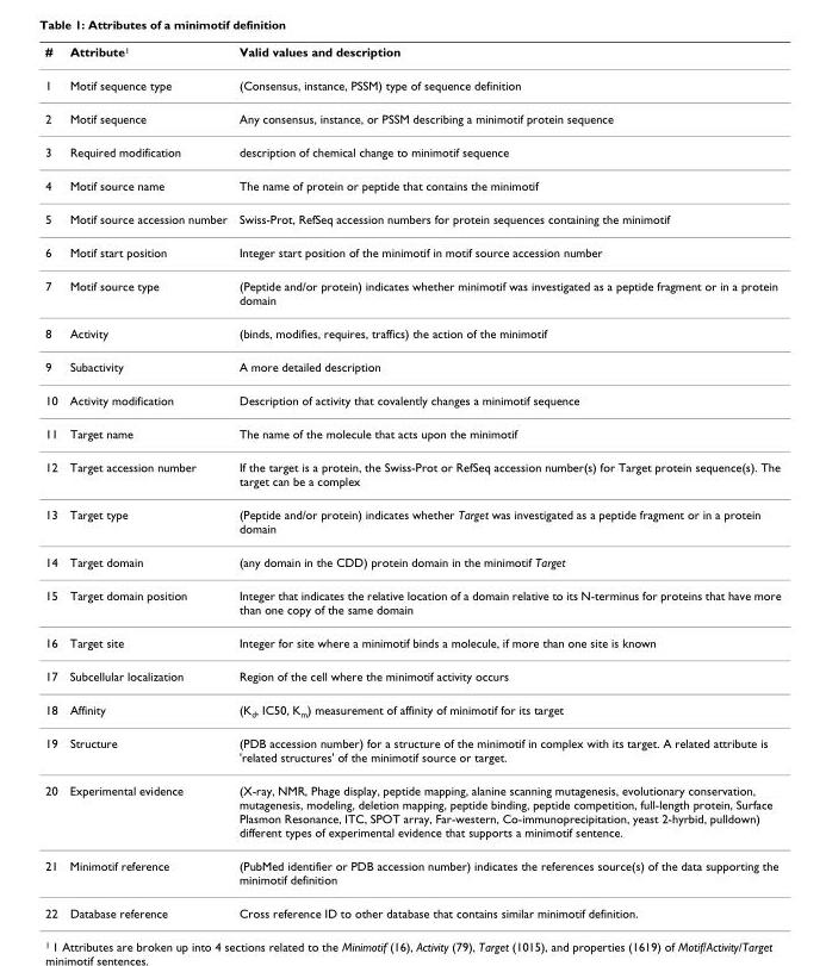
<table><thead><tr><td>#</td><td>Attribute<sup>1</sup></td><td>Valid values and description</td></tr></thead><tbody><tr><td>1</td><td>Motif sequence type</td><td>(Consensus, instance, PSSM) type of sequence definition</td></tr><tr><td>2</td><td>Motif sequence</td><td>Any consensus, instance, or PSSM describing a minimotif protein sequence</td></tr><tr><td>3</td><td>Required modification</td><td>description of chemical change to minimotif sequence</td></tr><tr><td>4</td><td>Motif source name</td><td>The name of protein or peptide that contains the minimotif</td></tr><tr><td>5</td><td>Motif source accession number</td><td>Swiss-Prot, RefSeq accession numbers for protein sequences containing the minimotif</td></tr><tr><td>6</td><td>Motif start position</td><td>Integer start position of the minimotif in motif source accession number</td></tr><tr><td>7</td><td>Motif source type</td><td>(Peptide and/or protein) indicates whether minimotif was investigated as a peptide fragment or in a protein domain</td></tr><tr><td>8</td><td>Activity</td><td>(binds, modifies, requires, traffics) the action of the minimotif</td></tr><tr><td>9</td><td>Subactivity</td><td>A more detailed description</td></tr><tr><td>10</td><td>Activity modification</td><td>Description of activity that covalently changes a minimotif sequence</td></tr><tr><td>11</td><td>Target name</td><td>The name of the molecule that acts upon the minimotif</td></tr><tr><td>12</td><td>Target accession number</td><td>If the target is a protein, the Swiss-Prot or RefSeq accession number(s) for Target protein sequence(s). The target can be a complex</td></tr><tr><td>13</td><td>Target type</td><td>(Peptide and/or protein) indicates whether Target was investigated as a peptide fragment or in a protein domain</td></tr><tr><td>14</td><td>Target domain</td><td>(any domain in the CDD) protein domain in the minimotif Target</td></tr><tr><td>15</td><td>Target domain position</td><td>Integer that indicates the relative location of a domain relative to its N-terminus for proteins that have more than one copy of the same domain</td></tr><tr><td>16</td><td>Target site</td><td>Integer for site where a minimotif binds a molecule, if more than one site is known</td></tr><tr><td>17</td><td>Subcellular localization</td><td>Region of the cell where the minimotif activity occurs</td></tr><tr><td>18</td><td>Affinity</td><td>(K<sub>d</sub>, IC50, K<sub>m</sub>) measurement of affinity of minimotif for its target</td></tr><tr><td>19</td><td>Structure</td><td>(PDB accession number) for a structure of the minimotif in complex with its target. A related attribute is &#x27;related structures&#x27; of the minimotif source or target.</td></tr><tr><td>20</td><td>Experimental evidence</td><td>(X-ray, NMR, Phage display, peptide mapping, alanine scanning mutagenesis, evolutionary conservation, mutagenesis, modeling, deletion mapping, peptide binding, peptide competition, full-length protein, Surface Plasmon Resonance, ITC, SPOT array, Far-western, Co-immunoprecipitation, yeast 2-hyrbid, pulldown) different types of experimental evidence that supports a minimotif sentence.</td></tr><tr><td>21</td><td>Minimotif reference</td><td>(PubMed identifier or PDB accession number) indicates the references source(s) of the data supporting the minimotif definition</td></tr><tr><td>22</td><td>Database reference</td><td>Cross reference ID to other database that contains similar minimotif definition.</td></tr></tbody></table>